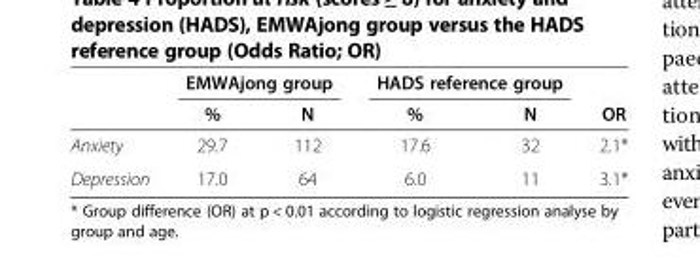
<table><thead><tr><td rowspan="2"></td><td colspan="2">EMWAjong group</td><td colspan="2">HADS reference group</td><td rowspan="2">OR</td></tr><tr><td>%</td><td>N</td><td>%</td><td>N</td></tr></thead><tbody><tr><td>Anxiety</td><td>29.7</td><td>112</td><td>17.6</td><td>32</td><td>2.1*</td></tr><tr><td>Depression</td><td>17.0</td><td>64</td><td>6.0</td><td>11</td><td>3.1*</td></tr></tbody></table>